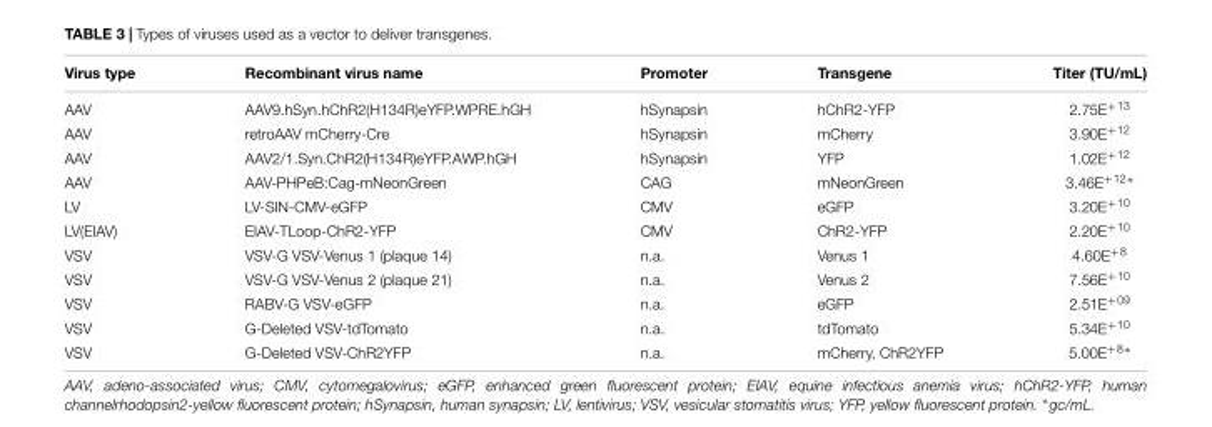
<table><thead><tr><td>Virus type</td><td>Recombinant virus name</td><td>Promoter</td><td>Transgene</td><td>Titer (TU/mL)</td></tr></thead><tbody><tr><td>AAV</td><td>AAV9.hSyn.hChR2(H134R)eYFP.WPRE.hGH</td><td>hSynapsin</td><td>hChR2-YFP</td><td>2.75E<sup>+13</sup></td></tr><tr><td>AAV</td><td>retroAAV mCherry-Cre</td><td>hSynapsin</td><td>mCherry</td><td>3.90E<sup>+12</sup></td></tr><tr><td>AAV</td><td>AAV2/1.Syn.ChR2(H134R)eYFP.AWP.hGH</td><td>hSynapsin</td><td>YFP</td><td>1.02E<sup>+12</sup></td></tr><tr><td>AAV</td><td>AAV-PHPeB:Cag-mNeonGreen</td><td>CAG</td><td>mNeonGreen</td><td>3.46E<sup>+12∗</sup></td></tr><tr><td>LV</td><td>LV-SIN-CMV-eGFP</td><td>CMV</td><td>eGFP</td><td>3.20E<sup>+10</sup></td></tr><tr><td>LV(EIAV)</td><td>EIAV-TLoop-ChR2-YFP</td><td>CMV</td><td>ChR2-YFP</td><td>2.20E<sup>+10</sup></td></tr><tr><td>VSV</td><td>VSV-G VSV-Venus 1 (plaque 14)</td><td>n.a.</td><td>Venus 1</td><td>4.60E<sup>+8</sup></td></tr><tr><td>VSV</td><td>VSV-G VSV-Venus 2 (plaque 21)</td><td>n.a.</td><td>Venus 2</td><td>7.56E<sup>+10</sup></td></tr><tr><td>VSV</td><td>RABV-G VSV-eGFP</td><td>n.a.</td><td>eGFP</td><td>2.51E<sup>+09</sup></td></tr><tr><td>VSV</td><td>G-Deleted VSV-tdTomato</td><td>n.a.</td><td>tdTomato</td><td>5.34E<sup>+10</sup></td></tr><tr><td>VSV</td><td>G-Deleted VSV-ChR2YFP</td><td>n.a.</td><td>mCherry, ChR2YFP</td><td>5.00E<sup>+8∗</sup></td></tr></tbody></table>